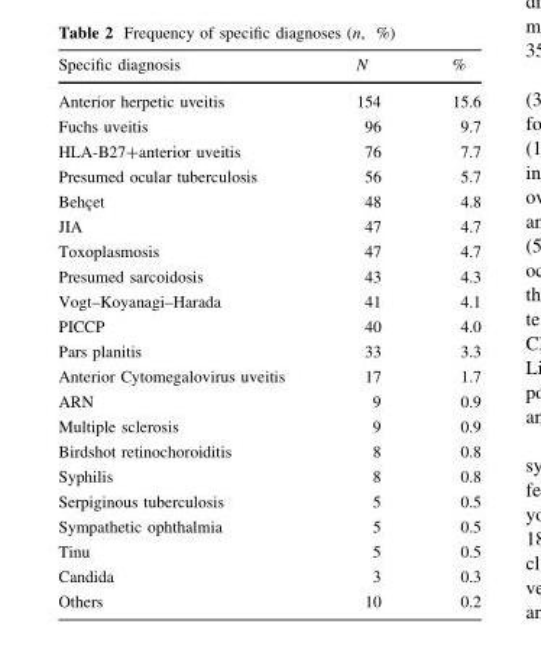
<table><thead><tr><td>Specific diagnosis</td><td>N</td><td>%</td></tr></thead><tbody><tr><td>Anterior herpetic uveitis</td><td>154</td><td>15.6</td></tr><tr><td>Fuchs uveitis</td><td>96</td><td>9.7</td></tr><tr><td>HLA-B27+anterior uveitis</td><td>76</td><td>7.7</td></tr><tr><td>Presumed ocular tuberculosis</td><td>56</td><td>5.7</td></tr><tr><td>Behc¸et</td><td>48</td><td>4.8</td></tr><tr><td>JIA</td><td>47</td><td>4.7</td></tr><tr><td>Toxoplasmosis</td><td>47</td><td>4.7</td></tr><tr><td>Presumed sarcoidosis</td><td>43</td><td>4.3</td></tr><tr><td>Vogt–Koyanagi–Harada</td><td>41</td><td>4.1</td></tr><tr><td>PICCP</td><td>40</td><td>4.0</td></tr><tr><td>Pars planitis</td><td>33</td><td>3.3</td></tr><tr><td>Anterior Cytomegalovirus uveitis</td><td>17</td><td>1.7</td></tr><tr><td>ARN</td><td>9</td><td>0.9</td></tr><tr><td>Multiple sclerosis</td><td>9</td><td>0.9</td></tr><tr><td>Birdshot retinochoroiditis</td><td>8</td><td>0.8</td></tr><tr><td>Syphilis</td><td>8</td><td>0.8</td></tr><tr><td>Serpiginous tuberculosis</td><td>5</td><td>0.5</td></tr><tr><td>Sympathetic ophthalmia</td><td>5</td><td>0.5</td></tr><tr><td>Tinu</td><td>5</td><td>0.5</td></tr><tr><td>Candida</td><td>3</td><td>0.3</td></tr><tr><td>Others</td><td>10</td><td>0.2</td></tr></tbody></table>